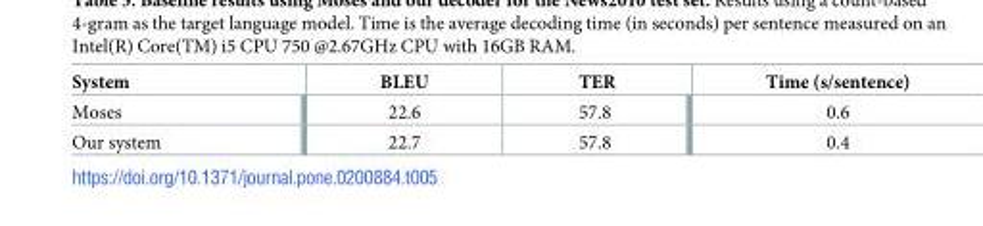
<table><thead><tr><td>System</td><td>BLEU</td><td>TER</td><td>Time (s/sentence)</td></tr></thead><tbody><tr><td>Moses</td><td>22.6</td><td>57.8</td><td>0.6</td></tr><tr><td>Our system</td><td>22.7</td><td>57.8</td><td>0.4</td></tr></tbody></table>